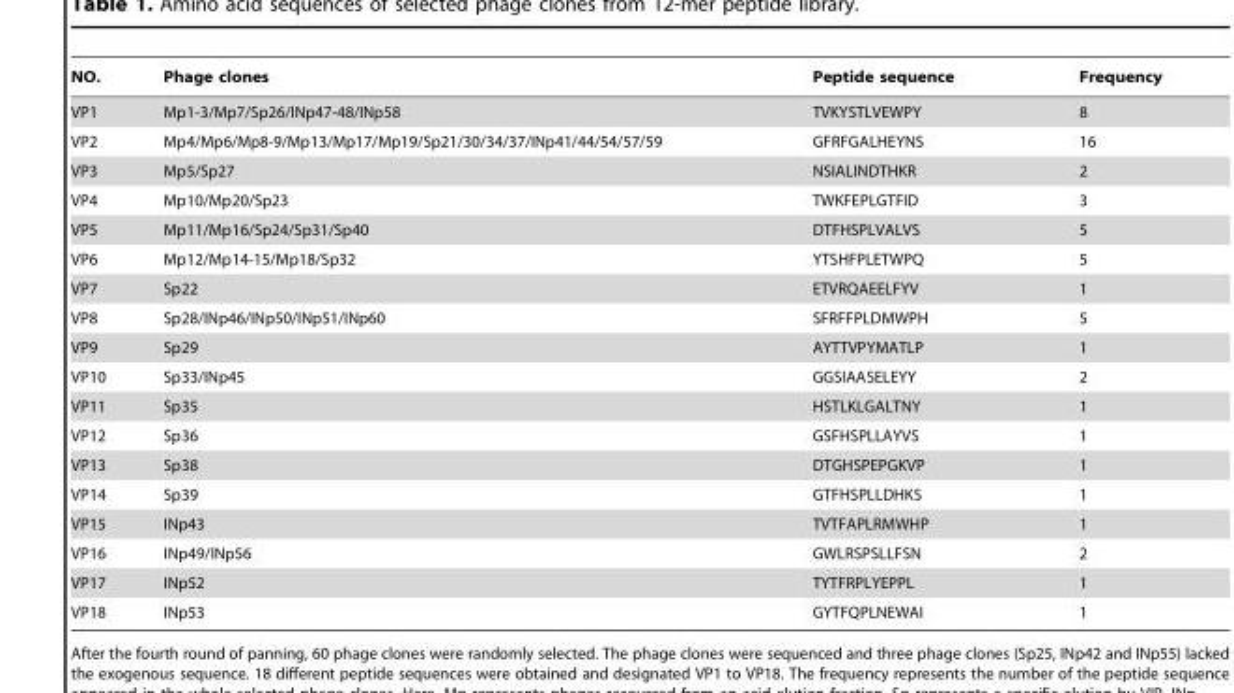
<table><thead><tr><td>NO.</td><td>Phage clones</td><td>Peptide sequence</td><td>Frequency</td></tr></thead><tbody><tr><td>VP1</td><td>Mp1-3/Mp7/Sp26/INp47-48/INp58</td><td>TVKYSTLVEWPY</td><td>8</td></tr><tr><td>VP2</td><td>Mp4/Mp6/Mp8-9/Mp13/Mp17/Mp19/Sp21/30/34/37/INp41/44/54/57/59</td><td>GFRFGALHEYNS</td><td>16</td></tr><tr><td>VP3</td><td>Mp5/Sp27</td><td>NSIALINDTHKR</td><td>2</td></tr><tr><td>VP4</td><td>Mp10/Mp20/Sp23</td><td>TWKFEPLGTFID</td><td>3</td></tr><tr><td>VP5</td><td>Mp11/Mp16/Sp24/Sp31/Sp40</td><td>DTFHSPLVALVS</td><td>5</td></tr><tr><td>VP6</td><td>Mp12/Mp14-15/Mp18/Sp32</td><td>YTSHFPLETWPQ</td><td>5</td></tr><tr><td>VP7</td><td>Sp22</td><td>ETVRQAEELFYV</td><td>1</td></tr><tr><td>VP8</td><td>Sp28/INp46/INp50/INp51/INp60</td><td>SFRFFPLDMWPH</td><td>5</td></tr><tr><td>VP9</td><td>Sp29</td><td>AYTTVPYMATLP</td><td>1</td></tr><tr><td>VP10</td><td>Sp33/INp45</td><td>GGSIAASELEYY</td><td>2</td></tr><tr><td>VP11</td><td>Sp35</td><td>HSTLKLGALTNY</td><td>1</td></tr><tr><td>VP12</td><td>Sp36</td><td>GSFHSPLLAYVS</td><td>1</td></tr><tr><td>VP13</td><td>Sp38</td><td>DTGHSPEPGKVP</td><td>1</td></tr><tr><td>VP14</td><td>Sp39</td><td>GTFHSPLLDHKS</td><td>1</td></tr><tr><td>VP15</td><td>INp43</td><td>TVTFAPLRMWHP</td><td>1</td></tr><tr><td>VP16</td><td>INp49/INp56</td><td>GWLRSPSLLFSN</td><td>2</td></tr><tr><td>VP17</td><td>INp52</td><td>TYTFRPLYEPPL</td><td>1</td></tr><tr><td>VP18</td><td>INp53</td><td>GYTFQPLNEWAI</td><td>1</td></tr></tbody></table>